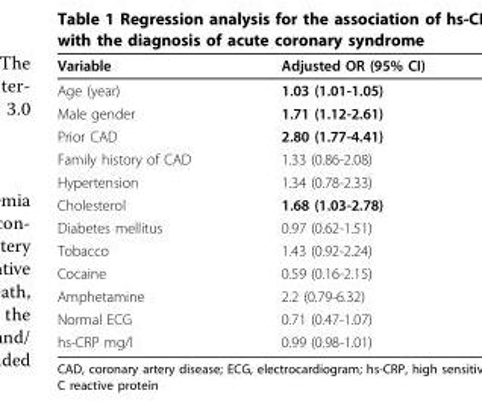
<table><thead><tr><td>Variable</td><td>Adjusted OR (95% CI)</td></tr></thead><tbody><tr><td>Age (year)</td><td>1.03 (1.01-1.05)</td></tr><tr><td>Male gender</td><td>1.71 (1.12-2.61)</td></tr><tr><td>Prior CAD</td><td>2.80 (1.77-4.41)</td></tr><tr><td>Family history of CAD</td><td>1.33 (0.86-2.08)</td></tr><tr><td>Hypertension</td><td>1.34 (0.78-2.33)</td></tr><tr><td>Cholesterol</td><td>1.68 (1.03-2.78)</td></tr><tr><td>Diabetes mellitus</td><td>0.97 (0.62-1.51)</td></tr><tr><td>Tobacco</td><td>1.43 (0.92-2.24)</td></tr><tr><td>Cocaine</td><td>0.59 (0.16-2.15)</td></tr><tr><td>Amphetamine</td><td>2.2 (0.79-6.32)</td></tr><tr><td>Normal ECG</td><td>0.71 (0.47-1.07)</td></tr><tr><td>hs-CRP mg/l</td><td>0.99 (0.98-1.01)</td></tr></tbody></table>